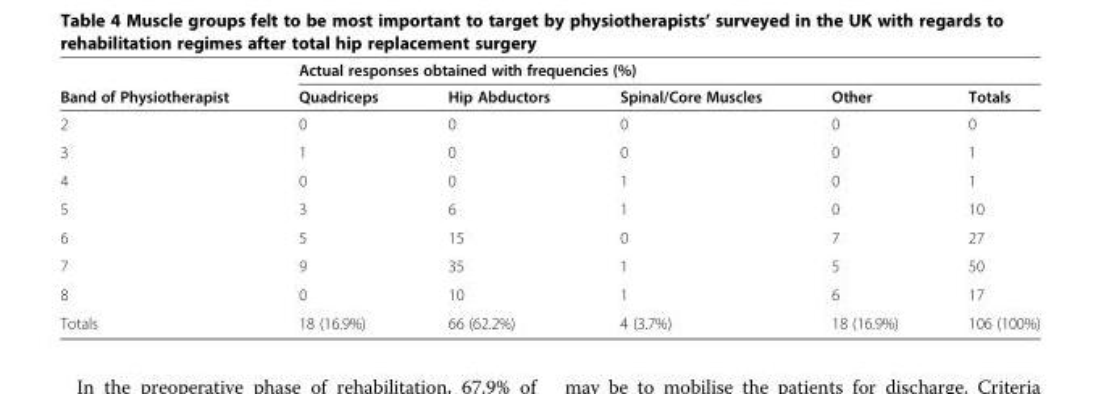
<table><thead><tr><td rowspan="2">Band of Physiotherapist</td><td colspan="5">Actual responses obtained with frequencies (%)</td></tr><tr><td>Quadriceps</td><td>Hip Abductors</td><td>Spinal/Core Muscles</td><td>Other</td><td>Totals</td></tr></thead><tbody><tr><td>2</td><td>0</td><td>0</td><td>0</td><td>0</td><td>0</td></tr><tr><td>3</td><td>1</td><td>0</td><td>0</td><td>0</td><td>1</td></tr><tr><td>4</td><td>0</td><td>0</td><td>1</td><td>0</td><td>1</td></tr><tr><td>5</td><td>3</td><td>6</td><td>1</td><td>0</td><td>10</td></tr><tr><td>6</td><td>5</td><td>15</td><td>0</td><td>7</td><td>27</td></tr><tr><td>7</td><td>9</td><td>35</td><td>1</td><td>5</td><td>50</td></tr><tr><td>8</td><td>0</td><td>10</td><td>1</td><td>6</td><td>17</td></tr><tr><td>Totals</td><td>18 (16.9%)</td><td>66 (62.2%)</td><td>4 (3.7%)</td><td>18 (16.9%)</td><td>106 (100%)</td></tr></tbody></table>